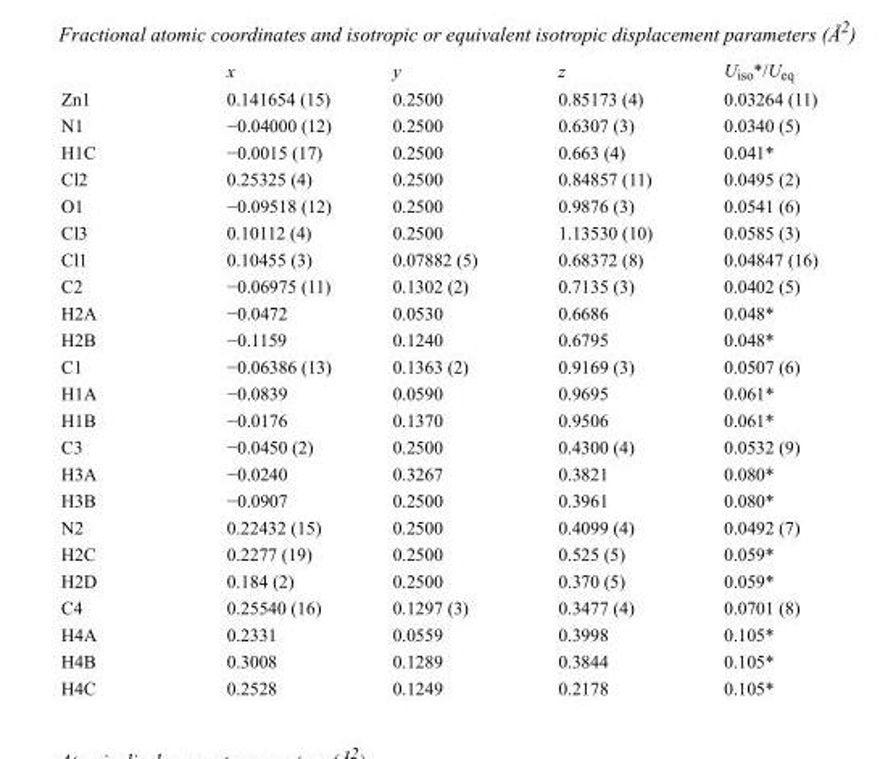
<table><thead><tr><td></td><td>x</td><td>y</td><td>z</td><td>U<sub>iso</sub>*/U<sub>eq</sub></td></tr></thead><tbody><tr><td>Zn1</td><td>0.141654 (15)</td><td>0.2500</td><td>0.85173 (4)</td><td>0.03264 (11)</td></tr><tr><td>N1</td><td>−0.04000 (12)</td><td>0.2500</td><td>0.6307 (3)</td><td>0.0340 (5)</td></tr><tr><td>H1C</td><td>−0.0015 (17)</td><td>0.2500</td><td>0.663 (4)</td><td>0.041*</td></tr><tr><td>Cl2</td><td>0.25325 (4)</td><td>0.2500</td><td>0.84857 (11)</td><td>0.0495 (2)</td></tr><tr><td>O1</td><td>−0.09518 (12)</td><td>0.2500</td><td>0.9876 (3)</td><td>0.0541 (6)</td></tr><tr><td>Cl3</td><td>0.10112 (4)</td><td>0.2500</td><td>1.13530 (10)</td><td>0.0585 (3)</td></tr><tr><td>Cl1</td><td>0.10455 (3)</td><td>0.07882 (5)</td><td>0.68372 (8)</td><td>0.04847 (16)</td></tr><tr><td>C2</td><td>−0.06975 (11)</td><td>0.1302 (2)</td><td>0.7135 (3)</td><td>0.0402 (5)</td></tr><tr><td>H2A</td><td>−0.0472</td><td>0.0530</td><td>0.6686</td><td>0.048*</td></tr><tr><td>H2B</td><td>−0.1159</td><td>0.1240</td><td>0.6795</td><td>0.048*</td></tr><tr><td>C1</td><td>−0.06386 (13)</td><td>0.1363 (2)</td><td>0.9169 (3)</td><td>0.0507 (6)</td></tr><tr><td>H1A</td><td>−0.0839</td><td>0.0590</td><td>0.9695</td><td>0.061*</td></tr><tr><td>H1B</td><td>−0.0176</td><td>0.1370</td><td>0.9506</td><td>0.061*</td></tr><tr><td>C3</td><td>−0.0450 (2)</td><td>0.2500</td><td>0.4300 (4)</td><td>0.0532 (9)</td></tr><tr><td>H3A</td><td>−0.0240</td><td>0.3267</td><td>0.3821</td><td>0.080*</td></tr><tr><td>H3B</td><td>−0.0907</td><td>0.2500</td><td>0.3961</td><td>0.080*</td></tr><tr><td>N2</td><td>0.22432 (15)</td><td>0.2500</td><td>0.4099 (4)</td><td>0.0492 (7)</td></tr><tr><td>H2C</td><td>0.2277 (19)</td><td>0.2500</td><td>0.525 (5)</td><td>0.059*</td></tr><tr><td>H2D</td><td>0.184 (2)</td><td>0.2500</td><td>0.370 (5)</td><td>0.059*</td></tr><tr><td>C4</td><td>0.25540 (16)</td><td>0.1297 (3)</td><td>0.3477 (4)</td><td>0.0701 (8)</td></tr><tr><td>H4A</td><td>0.2331</td><td>0.0559</td><td>0.3998</td><td>0.105*</td></tr><tr><td>H4B</td><td>0.3008</td><td>0.1289</td><td>0.3844</td><td>0.105*</td></tr><tr><td>H4C</td><td>0.2528</td><td>0.1249</td><td>0.2178</td><td>0.105*</td></tr></tbody></table>